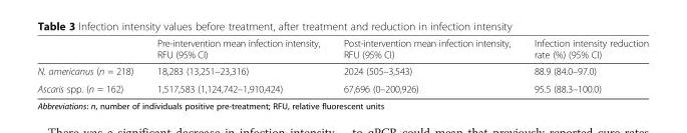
<table><thead><tr><td></td><td>Pre-intervention mean infection intensity, RFU (95% CI)</td><td>Post-intervention mean infection intensity, RFU (95% CI)</td><td>Infection intensity reduction rate (%) (95% CI)</td></tr></thead><tbody><tr><td>N. americanus (n = 218)</td><td>18,283 (13,251–23,316)</td><td>2024 (505–3,543)</td><td>88.9 (84.0–97.0)</td></tr><tr><td>Ascaris spp. (n = 162)</td><td>1,517,583 (1,124,742–1,910,424)</td><td>67,696 (0–200,926)</td><td>95.5 (88.3–100.0)</td></tr></tbody></table>